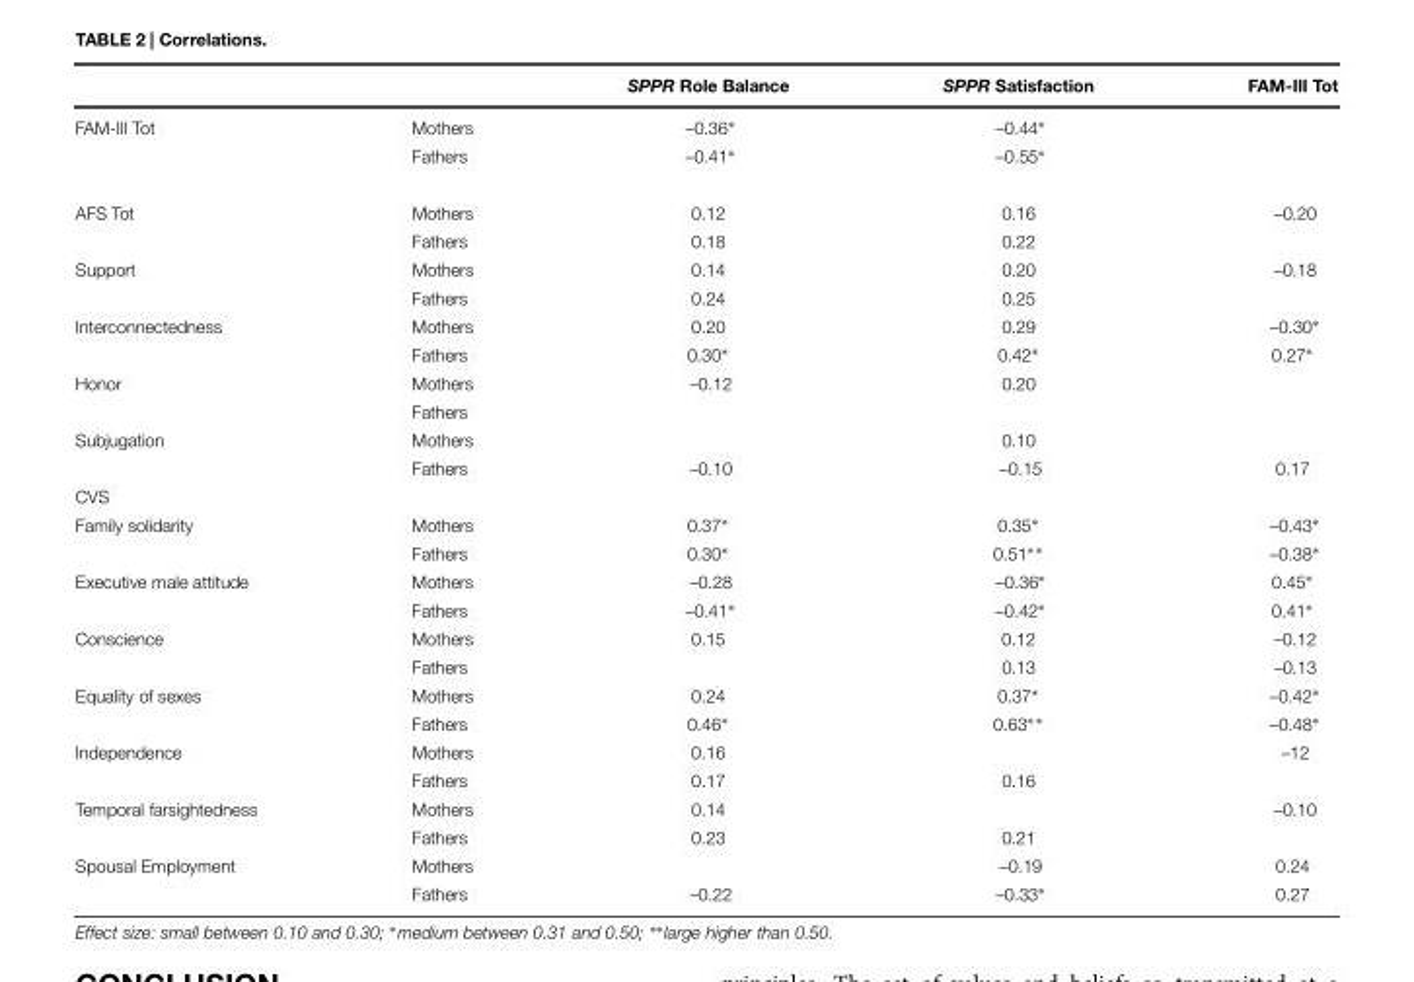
<table><thead><tr><td></td><td></td><td>SPPR Role Balance</td><td>SPPR Satisfaction</td><td>FAM-III Tot</td></tr></thead><tbody><tr><td rowspan="2">FAM-III Tot</td><td>Mothers</td><td>–0.36∗</td><td>–0.44∗</td><td></td></tr><tr><td>Fathers</td><td>–0.41∗</td><td>–0.55∗</td><td></td></tr><tr><td rowspan="2">AFS Tot</td><td>Mothers</td><td>0.12</td><td>0.16</td><td>–0.20</td></tr><tr><td>Fathers</td><td>0.18</td><td>0.22</td><td></td></tr><tr><td rowspan="2">Support</td><td>Mothers</td><td>0.14</td><td>0.20</td><td>–0.18</td></tr><tr><td>Fathers</td><td>0.24</td><td>0.25</td><td></td></tr><tr><td rowspan="2">Interconnectedness</td><td>Mothers</td><td>0.20</td><td>0.29</td><td>–0.30∗</td></tr><tr><td>Fathers</td><td>0.30∗</td><td>0.42∗</td><td>0.27∗</td></tr><tr><td rowspan="2">Honor</td><td>Mothers</td><td>–0.12</td><td>0.20</td><td></td></tr><tr><td>Fathers</td><td></td><td></td><td></td></tr><tr><td rowspan="2">Subjugation</td><td>Mothers</td><td></td><td>0.10</td><td></td></tr><tr><td>Fathers</td><td>–0.10</td><td>–0.15</td><td>0.17</td></tr><tr><td colspan="5">CVS</td></tr><tr><td rowspan="2">Family solidarity</td><td>Mothers</td><td>0.37∗</td><td>0.35∗</td><td>–0.43∗</td></tr><tr><td>Fathers</td><td>0.30∗</td><td>0.51∗∗</td><td>–0.38∗</td></tr><tr><td rowspan="2">Executive male attitude</td><td>Mothers</td><td>–0.28</td><td>–0.36∗</td><td>0.45∗</td></tr><tr><td>Fathers</td><td>–0.41∗</td><td>–0.42∗</td><td>0.41∗</td></tr><tr><td rowspan="2">Conscience</td><td>Mothers</td><td>0.15</td><td>0.12</td><td>–0.12</td></tr><tr><td>Fathers</td><td></td><td>0.13</td><td>–0.13</td></tr><tr><td rowspan="2">Equality of sexes</td><td>Mothers</td><td>0.24</td><td>0.37∗</td><td>–0.42∗</td></tr><tr><td>Fathers</td><td>0.46∗</td><td>0.63∗∗</td><td>–0.48∗</td></tr><tr><td rowspan="2">Independence</td><td>Mothers</td><td>0.16</td><td></td><td>–12</td></tr><tr><td>Fathers</td><td>0.17</td><td>0.16</td><td></td></tr><tr><td rowspan="2">Temporal farsightedness</td><td>Mothers</td><td>0.14</td><td></td><td>–0.10</td></tr><tr><td>Fathers</td><td>0.23</td><td>0.21</td><td></td></tr><tr><td rowspan="2">Spousal Employment</td><td>Mothers</td><td></td><td>–0.19</td><td>0.24</td></tr><tr><td>Fathers</td><td>–0.22</td><td>–0.33∗</td><td>0.27</td></tr></tbody></table>